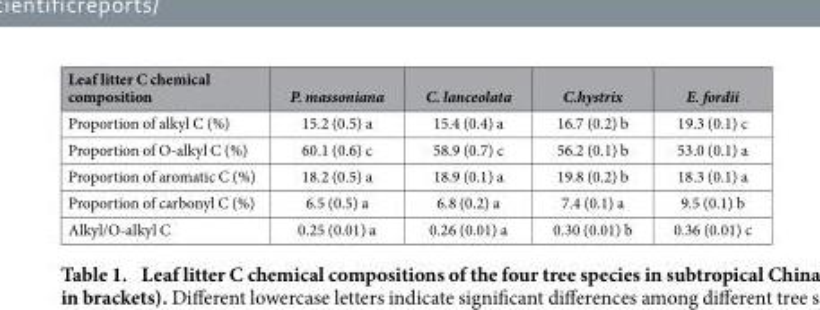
<table><thead><tr><td>Leaf litter C chemical composition</td><td>P. massoniana</td><td>C. lanceolata</td><td>C.hystrix</td><td>E. fordii</td></tr></thead><tbody><tr><td>Proportion of alkyl C (%)</td><td>15.2 (0.5) a</td><td>15.4 (0.4) a</td><td>16.7 (0.2) b</td><td>19.3 (0.1) c</td></tr><tr><td>Proportion of O-alkyl C (%)</td><td>60.1 (0.6) c</td><td>58.9 (0.7) c</td><td>56.2 (0.1) b</td><td>53.0 (0.1) a</td></tr><tr><td>Proportion of aromatic C (%)</td><td>18.2 (0.5) a</td><td>18.9 (0.1) a</td><td>19.8 (0.2) b</td><td>18.3 (0.1) a</td></tr><tr><td>Proportion of carbonyl C (%)</td><td>6.5 (0.5) a</td><td>6.8 (0.2) a</td><td>7.4 (0.1) a</td><td>9.5 (0.1) b</td></tr><tr><td>Alkyl/O-alkyl C</td><td>0.25 (0.01) a</td><td>0.26 (0.01) a</td><td>0.30 (0.01) b</td><td>0.36 (0.01) c</td></tr></tbody></table>